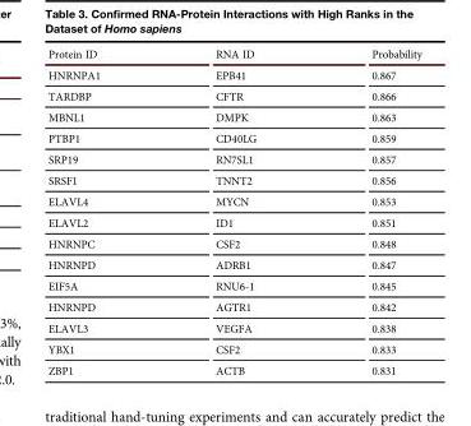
<table><thead><tr><td>Protein ID</td><td>RNA ID</td><td>Probability</td></tr></thead><tbody><tr><td>HNRNPA1</td><td>EPB41</td><td>0.867</td></tr><tr><td>TARDBP</td><td>CFTR</td><td>0.866</td></tr><tr><td>MBNL1</td><td>DMPK</td><td>0.863</td></tr><tr><td>PTBP1</td><td>CD40LG</td><td>0.859</td></tr><tr><td>SRP19</td><td>RN7SL1</td><td>0.857</td></tr><tr><td>SRSF1</td><td>TNNT2</td><td>0.856</td></tr><tr><td>ELAVL4</td><td>MYCN</td><td>0.853</td></tr><tr><td>ELAVL2</td><td>ID1</td><td>0.851</td></tr><tr><td>HNRNPC</td><td>CSF2</td><td>0.848</td></tr><tr><td>HNRNPD</td><td>ADRB1</td><td>0.847</td></tr><tr><td>EIF5A</td><td>RNU6-1</td><td>0.845</td></tr><tr><td>HNRNPD</td><td>AGTR1</td><td>0.842</td></tr><tr><td>ELAVL3</td><td>VEGFA</td><td>0.838</td></tr><tr><td>YBX1</td><td>CSF2</td><td>0.833</td></tr><tr><td>ZBP1</td><td>ACTB</td><td>0.831</td></tr></tbody></table>